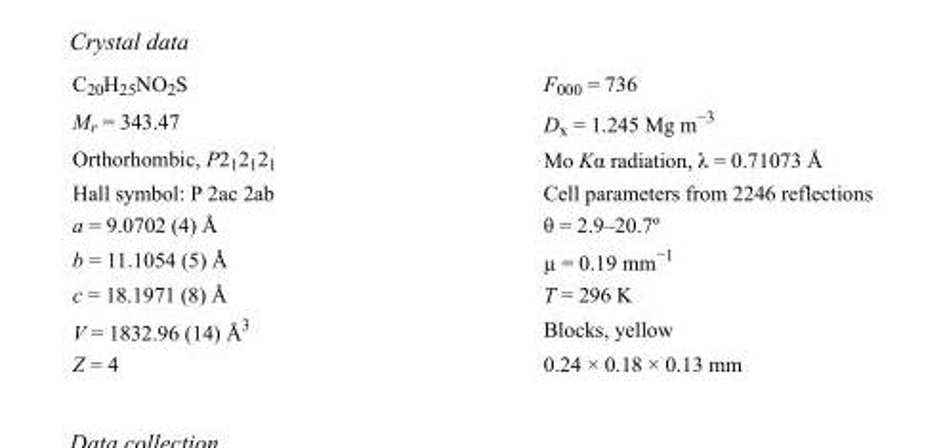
<table><tbody><tr><td>C<sub>20</sub>H<sub>25</sub>NO<sub>2</sub>S</td><td>F000 = 736</td></tr><tr><td>M<sub>r</sub> = 343.47</td><td>D<sub>x</sub> = 1.245 Mg m<sup>−3</sup></td></tr><tr><td>Orthorhombic, P2<sub>1</sub>2<sub>1</sub>2<sub>1</sub></td><td>Mo Kα radiation, λ = 0.71073 Å</td></tr><tr><td>Hall symbol: P 2ac 2ab</td><td>Cell parameters from 2246 reflections</td></tr><tr><td>a = 9.0702 (4) Å</td><td>θ = 2.9–20.7º</td></tr><tr><td>b = 11.1054 (5) Å</td><td>µ = 0.19 mm<sup>−1</sup></td></tr><tr><td>c = 18.1971 (8) Å</td><td>T = 296 K</td></tr><tr><td>V = 1832.96 (14) Å<sup>3</sup></td><td>Blocks, yellow</td></tr><tr><td>Z = 4</td><td>0.24 × 0.18 × 0.13 mm</td></tr></tbody></table>